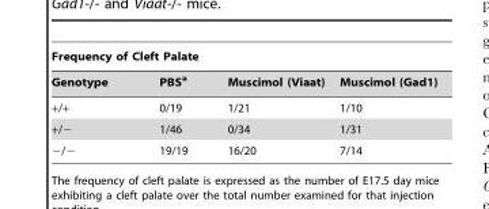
<table><thead><tr><td colspan="4">Frequency of Cleft Palate</td></tr><tr><td>Genotype</td><td>PBS<sup>a</sup></td><td>Muscimol (Viaat)</td><td>Muscimol (Gad1)</td></tr></thead><tbody><tr><td>+/+</td><td>0/19</td><td>1/21</td><td>1/10</td></tr><tr><td>+/−</td><td>1/46</td><td>0/34</td><td>1/31</td></tr><tr><td>−/−</td><td>19/19</td><td>16/20</td><td>7/14</td></tr></tbody></table>